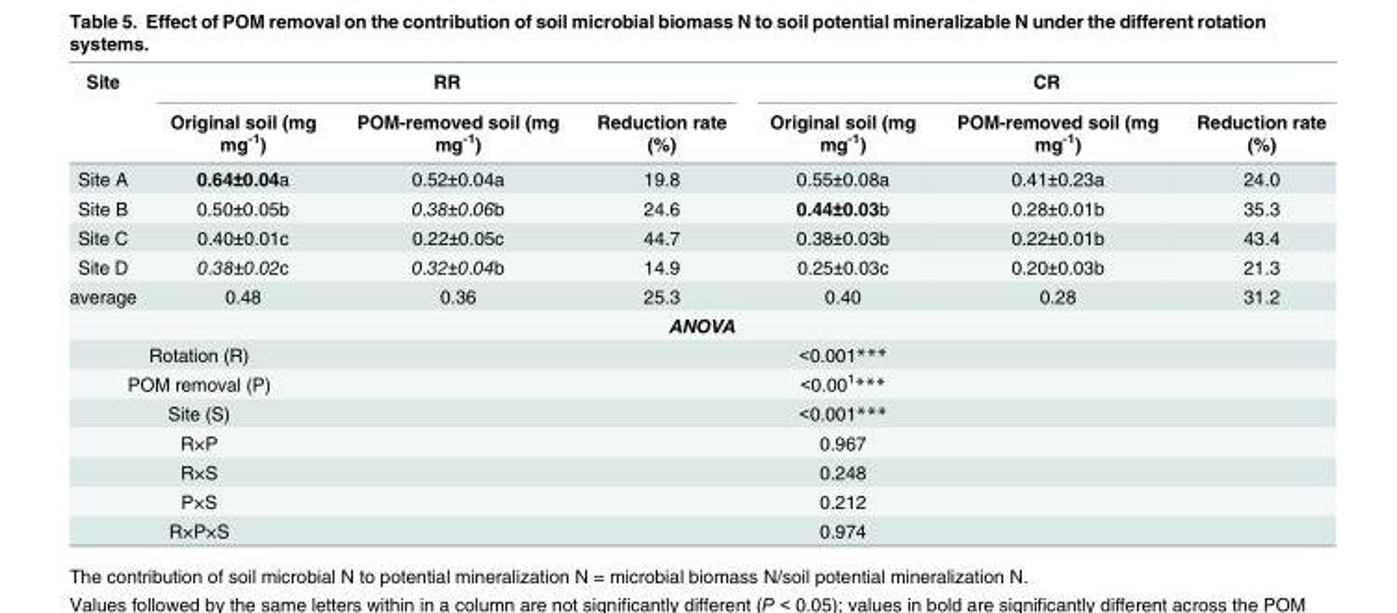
<table><thead><tr><td rowspan="2">Site</td><td colspan="3">RR</td><td colspan="3">CR</td></tr><tr><td>Original soil (mg mg<sup>-1</sup>)</td><td>POM-removed soil (mg mg<sup>-1</sup>)</td><td>Reduction rate (%)</td><td>Original soil (mg mg<sup>-1</sup>)</td><td>POM-removed soil (mg mg<sup>-1</sup>)</td><td>Reduction rate (%)</td></tr></thead><tbody><tr><td>Site A</td><td>0.64±0.04a</td><td>0.52±0.04a</td><td>19.8</td><td>0.55±0.08a</td><td>0.41±0.23a</td><td>24.0</td></tr><tr><td>Site B</td><td>0.50±0.05b</td><td>0.38±0.06b</td><td>24.6</td><td>0.44±0.03b</td><td>0.28±0.01b</td><td>35.3</td></tr><tr><td>Site C</td><td>0.40±0.01c</td><td>0.22±0.05c</td><td>44.7</td><td>0.38±0.03b</td><td>0.22±0.01b</td><td>43.4</td></tr><tr><td>Site D</td><td>0.38±0.02c</td><td>0.32±0.04b</td><td>14.9</td><td>0.25±0.03c</td><td>0.20±0.03b</td><td>21.3</td></tr><tr><td>average</td><td>0.48</td><td>0.36</td><td>25.3</td><td>0.40</td><td>0.28</td><td>31.2</td></tr><tr><td colspan="7">ANOVA</td></tr><tr><td colspan="2">Rotation (R)</td><td colspan="5">&lt;0.001***</td></tr><tr><td colspan="2">POM removal (P)</td><td colspan="5">&lt;0.00<sup>1</sup>***</td></tr><tr><td colspan="2">Site (S)</td><td colspan="5">&lt;0.001***</td></tr><tr><td colspan="2">R×P</td><td colspan="5">0.967</td></tr><tr><td colspan="2">R×S</td><td colspan="5">0.248</td></tr><tr><td colspan="2">P×S</td><td colspan="5">0.212</td></tr><tr><td colspan="2">R×P×S</td><td colspan="5">0.974</td></tr></tbody></table>